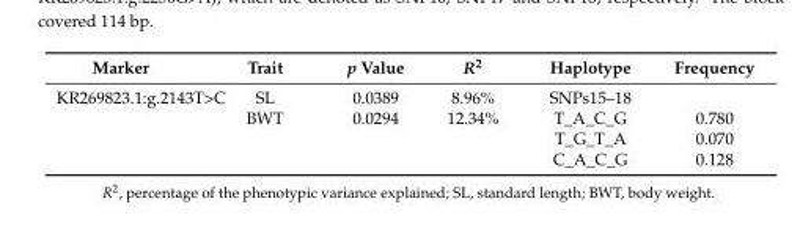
<table><thead><tr><td>Marker</td><td>Trait</td><td>p Value</td><td>R<sup>2</sup></td><td>Haplotype</td><td>Frequency</td></tr></thead><tbody><tr><td rowspan="4">KR269823.1:g.2143T&gt;C</td><td>SL</td><td>0.0389</td><td>8.96%</td><td>SNPs15–18</td><td></td></tr><tr><td>BWT</td><td>0.0294</td><td>12.34%</td><td>T_A_C_G</td><td>0.780</td></tr><tr><td></td><td></td><td></td><td>T_G_T_A</td><td>0.070</td></tr><tr><td></td><td></td><td></td><td>C_A_C_G</td><td>0.128</td></tr></tbody></table>